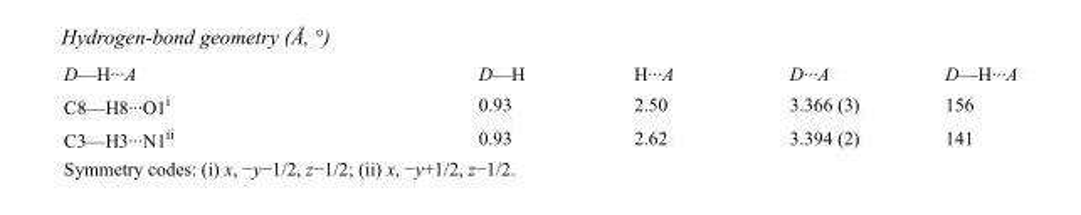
<table><tbody><tr><td>D—H···A</td><td>D—H</td><td>H···A</td><td>D···A</td><td>D—H···A</td></tr><tr><td>C8—H8···O1<sup>i</sup></td><td>0.93</td><td>2.50</td><td>3.366 (3)</td><td>156</td></tr><tr><td>C3—H3···N1<sup>ii</sup></td><td>0.93</td><td>2.62</td><td>3.394 (2)</td><td>141</td></tr></tbody></table>